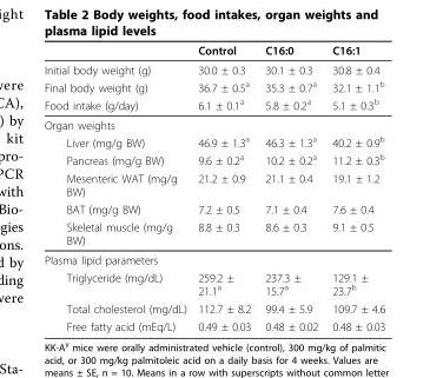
<table><thead><tr><td></td><td>Control</td><td>C16:0</td><td>C16:1</td></tr></thead><tbody><tr><td>Initial body weight (g)</td><td>30.0 ± 0.3</td><td>30.1 ± 0.3</td><td>30.8 ± 0.4</td></tr><tr><td>Final body weight (g)</td><td>36.7 ± 0.5<sup>a</sup></td><td>35.3 ± 0.7<sup>a</sup></td><td>32.1 ± 1.1<sup>b</sup></td></tr><tr><td>Food intake (g/day)</td><td>6.1 ± 0.1<sup>a</sup></td><td>5.8 ± 0.2<sup>a</sup></td><td>5.1 ± 0.3<sup>b</sup></td></tr><tr><td colspan="4">Organ weights</td></tr><tr><td>Liver (mg/g BW)</td><td>46.9 ± 1.3<sup>a</sup></td><td>46.3 ± 1.3<sup>a</sup></td><td>40.2 ± 0.9<sup>b</sup></td></tr><tr><td>Pancreas (mg/g BW)</td><td>9.6 ± 0.2<sup>a</sup></td><td>10.2 ± 0.2<sup>a</sup></td><td>11.2 ± 0.3<sup>b</sup></td></tr><tr><td>Mesenteric WAT (mg/g BW)</td><td>21.2 ± 0.9</td><td>21.1 ± 0.4</td><td>19.1 ± 1.2</td></tr><tr><td>BAT (mg/g BW)</td><td>7.2 ± 0.5</td><td>7.1 ± 0.4</td><td>7.6 ± 0.4</td></tr><tr><td>Skeletal muscle (mg/g BW)</td><td>8.8 ± 0.3</td><td>8.6 ± 0.3</td><td>9.1 ± 0.5</td></tr><tr><td colspan="4">Plasma lipid parameters</td></tr><tr><td>Triglyceride (mg/dL)</td><td>259.2 ± 21.1<sup>a</sup></td><td>237.3 ± 15.7<sup>a</sup></td><td>129.1 ± 23.7<sup>b</sup></td></tr><tr><td>Total cholesterol (mg/dL)</td><td>112.7 ± 8.2</td><td>99.4 ± 5.9</td><td>109.7 ± 4.6</td></tr><tr><td>Free fatty acid (mEq/L)</td><td>0.49 ± 0.03</td><td>0.48 ± 0.02</td><td>0.48 ± 0.03</td></tr></tbody></table>